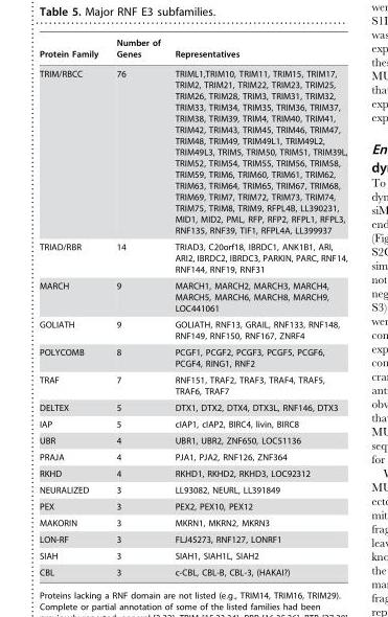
<table><thead><tr><td>Protein Family</td><td>Number of Genes</td><td>Representatives</td></tr></thead><tbody><tr><td>TRIM/RBCC</td><td>76</td><td>TRIML1,TRIM10, TRIM11, TRIM15, TRIM17, TRIM2, TRIM21, TRIM22, TRIM23, TRIM25, TRIM26, TRIM28, TRIM3, TRIM31, TRIM32, TRIM33, TRIM34, TRIM35, TRIM36, TRIM37, TRIM38, TRIM39, TRIM4, TRIM40, TRIM41, TRIM42, TRIM43, TRIM45, TRIM46, TRIM47, TRIM48, TRIM49, TRIM49L1, TRIM49L2, TRIM49L3, TRIM5, TRIM50, TRIM51, TRIM39L, TRIM52, TRIM54, TRIM55, TRIM56, TRIM58, TRIM59, TRIM6, TRIM60, TRIM61, TRIM62, TRIM63, TRIM64, TRIM65, TRIM67, TRIM68, TRIM69, TRIM7, TRIM72, TRIM73, TRIM74, TRIM75, TRIM8, TRIM9, RFPL4B, LL390231, MID1, MID2, PML, RFP, RFP2, RFPL1, RFPL3, RNF135, RNF39, TIF1, RFPL4A, LL399937</td></tr><tr><td>TRIAD/RBR</td><td>14</td><td>TRIAD3, C20orf18, IBRDC1, ANK1B1, ARI, ARI2, IBRDC2, IBRDC3, PARKIN, PARC, RNF14, RNF144, RNF19, RNF31</td></tr><tr><td>MARCH</td><td>9</td><td>MARCH1, MARCH2, MARCH3, MARCH4, MARCH5, MARCH6, MARCH8, MARCH9, LOC441061</td></tr><tr><td>GOLIATH</td><td>9</td><td>GOLIATH, RNF13, GRAIL, RNF133, RNF148, RNF149, RNF150, RNF167, ZNRF4</td></tr><tr><td>POLYCOMB</td><td>8</td><td>PCGF1, PCGF2, PCGF3, PCGF5, PCGF6, PCGF4, RING1, RNF2</td></tr><tr><td>TRAF</td><td>7</td><td>RNF151, TRAF2, TRAF3, TRAF4, TRAF5, TRAF6, TRAF7</td></tr><tr><td>DELTEX</td><td>5</td><td>DTX1, DTX2, DTX4, DTX3L, RNF146, DTX3</td></tr><tr><td>IAP</td><td>5</td><td>cIAP1, cIAP2, BIRC4, livin, BIRC8</td></tr><tr><td>UBR</td><td>4</td><td>UBR1, UBR2, ZNF650, LOC51136</td></tr><tr><td>PRAJA</td><td>4</td><td>PJA1, PJA2, RNF126, ZNF364</td></tr><tr><td>RKHD</td><td>4</td><td>RKHD1, RKHD2, RKHD3, LOC92312</td></tr><tr><td>NEURALIZED</td><td>3</td><td>LL93082, NEURL, LL391849</td></tr><tr><td>PEX</td><td>3</td><td>PEX2, PEX10, PEX12</td></tr><tr><td>MAKORIN</td><td>3</td><td>MKRN1, MKRN2, MKRN3</td></tr><tr><td>LON-RF</td><td>3</td><td>FLJ45273, RNF127, LONRF1</td></tr><tr><td>SIAH</td><td>3</td><td>SIAH1, SIAH1L, SIAH2</td></tr><tr><td>CBL</td><td>3</td><td>c-CBL, CBL-B, CBL-3, (HAKAI?)</td></tr></tbody></table>